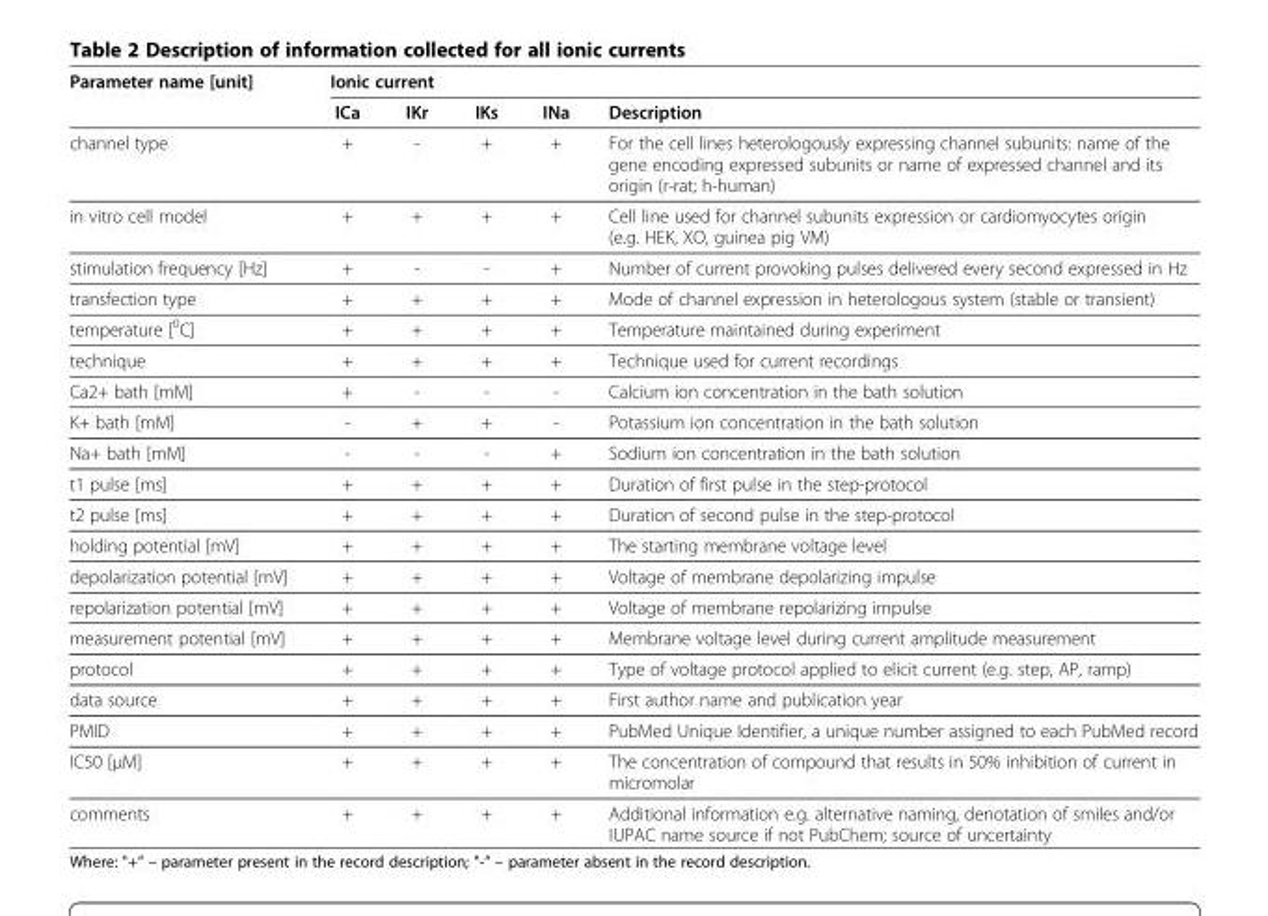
<table><thead><tr><td rowspan="2">Parameter name [unit]</td><td colspan="5">Ionic current</td></tr><tr><td>ICa</td><td>IKr</td><td>IKs</td><td>INa</td><td>Description</td></tr></thead><tbody><tr><td>channel type</td><td>+</td><td>-</td><td>+</td><td>+</td><td>For the cell lines heterologously expressing channel subunits: name of the gene encoding expressed subunits or name of expressed channel and its origin (r-rat; h-human)</td></tr><tr><td>in vitro cell model</td><td>+</td><td>+</td><td>+</td><td>+</td><td>Cell line used for channel subunits expression or cardiomyocytes origin (e.g. HEK, XO, guinea pig VM)</td></tr><tr><td>stimulation frequency [Hz]</td><td>+</td><td>-</td><td>-</td><td>+</td><td>Number of current provoking pulses delivered every second expressed in Hz</td></tr><tr><td>transfection type</td><td>+</td><td>+</td><td>+</td><td>+</td><td>Mode of channel expression in heterologous system (stable or transient)</td></tr><tr><td>temperature [<sup>0</sup>C]</td><td>+</td><td>+</td><td>+</td><td>+</td><td>Temperature maintained during experiment</td></tr><tr><td>technique</td><td>+</td><td>+</td><td>+</td><td>+</td><td>Technique used for current recordings</td></tr><tr><td>Ca2+ bath [mM]</td><td>+</td><td>-</td><td>-</td><td>-</td><td>Calcium ion concentration in the bath solution</td></tr><tr><td>K+ bath [mM]</td><td>-</td><td>+</td><td>+</td><td>-</td><td>Potassium ion concentration in the bath solution</td></tr><tr><td>Na+ bath [mM]</td><td>-</td><td>-</td><td>-</td><td>+</td><td>Sodium ion concentration in the bath solution</td></tr><tr><td>t1 pulse [ms]</td><td>+</td><td>+</td><td>+</td><td>+</td><td>Duration of first pulse in the step-protocol</td></tr><tr><td>t2 pulse [ms]</td><td>+</td><td>+</td><td>+</td><td>+</td><td>Duration of second pulse in the step-protocol</td></tr><tr><td>holding potential [mV]</td><td>+</td><td>+</td><td>+</td><td>+</td><td>The starting membrane voltage level</td></tr><tr><td>depolarization potential [mV]</td><td>+</td><td>+</td><td>+</td><td>+</td><td>Voltage of membrane depolarizing impulse</td></tr><tr><td>repolarization potential [mV]</td><td>+</td><td>+</td><td>+</td><td>+</td><td>Voltage of membrane repolarizing impulse</td></tr><tr><td>measurement potential [mV]</td><td>+</td><td>+</td><td>+</td><td>+</td><td>Membrane voltage level during current amplitude measurement</td></tr><tr><td>protocol</td><td>+</td><td>+</td><td>+</td><td>+</td><td>Type of voltage protocol applied to elicit current (e.g. step, AP, ramp)</td></tr><tr><td>data source</td><td>+</td><td>+</td><td>+</td><td>+</td><td>First author name and publication year</td></tr><tr><td>PMID</td><td>+</td><td>+</td><td>+</td><td>+</td><td>PubMed Unique Identifier, a unique number assigned to each PubMed record</td></tr><tr><td>IC50 [μM]</td><td>+</td><td>+</td><td>+</td><td>+</td><td>The concentration of compound that results in 50% inhibition of current in micromolar</td></tr><tr><td>comments</td><td>+</td><td>+</td><td>+</td><td>+</td><td>Additional information e.g. alternative naming, denotation of smiles and/or IUPAC name source if not PubChem; source of uncertainty</td></tr></tbody></table>